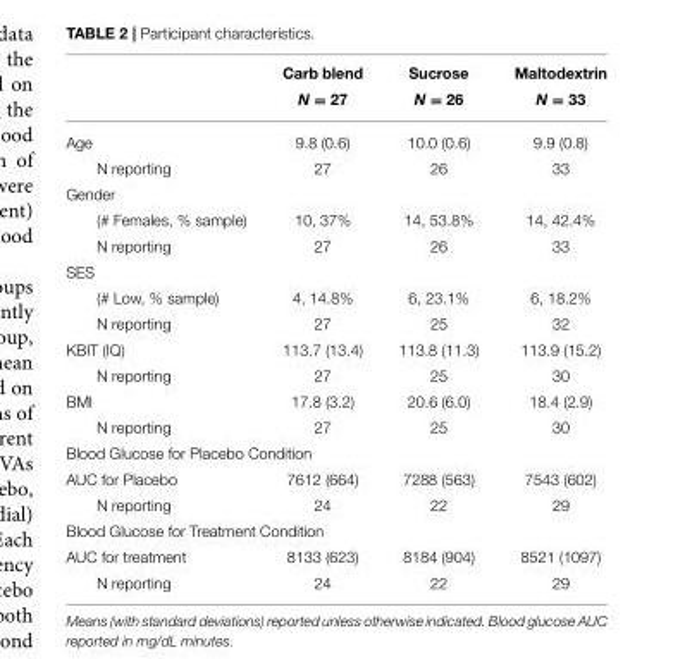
<table><thead><tr><td rowspan="2"></td><td rowspan="2">Carb blend N = 27</td><td rowspan="2">Sucrose N = 26</td><td rowspan="2">Maltodextrin N = 33</td></tr><tr></tr></thead><tbody><tr><td>Age</td><td>9.8 (0.6)</td><td>10.0 (0.6)</td><td>9.9 (0.8)</td></tr><tr><td>N reporting</td><td>27</td><td>26</td><td>33</td></tr><tr><td colspan="4">Gender</td></tr><tr><td>(# Females, % sample)</td><td>10, 37%</td><td>14, 53.8%</td><td>14, 42.4%</td></tr><tr><td>N reporting</td><td>27</td><td>26</td><td>33</td></tr><tr><td colspan="4">SES</td></tr><tr><td>(# Low, % sample)</td><td>4, 14.8%</td><td>6, 23.1%</td><td>6, 18.2%</td></tr><tr><td>N reporting</td><td>27</td><td>25</td><td>32</td></tr><tr><td>KBIT (IQ)</td><td>113.7 (13.4)</td><td>113.8 (11.3)</td><td>113.9 (15.2)</td></tr><tr><td>N reporting</td><td>27</td><td>25</td><td>30</td></tr><tr><td>BMI</td><td>17.8 (3.2)</td><td>20.6 (6.0)</td><td>18.4 (2.9)</td></tr><tr><td>N reporting</td><td>27</td><td>25</td><td>30</td></tr><tr><td colspan="4">Blood Glucose for Placebo Condition</td></tr><tr><td>AUC for Placebo</td><td>7612 (664)</td><td>7288 (563)</td><td>7543 (602)</td></tr><tr><td>N reporting</td><td>24</td><td>22</td><td>29</td></tr><tr><td colspan="4">Blood Glucose for Treatment Condition</td></tr><tr><td>AUC for treatment</td><td>8133 (623)</td><td>8184 (904)</td><td>8521 (1097)</td></tr><tr><td>N reporting</td><td>24</td><td>22</td><td>29</td></tr></tbody></table>